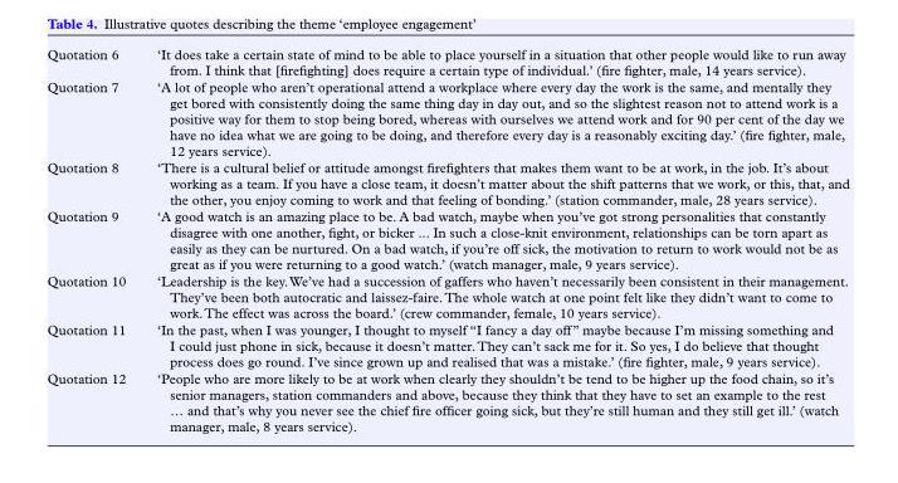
<table><tbody><tr><td>Quotation 6</td><td>‘It does take a certain state of mind to be able to place yourself in a situation that other people would like to run away from. I think that [firefighting] does require a certain type of individual.’ (fire fighter, male, 14 years service).</td></tr><tr><td>Quotation 7</td><td>‘A lot of people who aren’t operational attend a workplace where every day the work is the same, and mentally they get bored with consistently doing the same thing day in day out, and so the slightest reason not to attend work is a positive way for them to stop being bored, whereas with ourselves we attend work and for 90 per cent of the day we have no idea what we are going to be doing, and therefore every day is a reasonably exciting day.’ (fire fighter, male, 12 years service).</td></tr><tr><td>Quotation 8</td><td>‘There is a cultural belief or attitude amongst firefighters that makes them want to be at work, in the job. It’s about working as a team. If you have a close team, it doesn’t matter about the shift patterns that we work, or this, that, and the other, you enjoy coming to work and that feeling of bonding.’ (station commander, male, 28 years service).</td></tr><tr><td>Quotation 9</td><td>‘A good watch is an amazing place to be. A bad watch, maybe when you’ve got strong personalities that constantly disagree with one another, fight, or bicker ... In such a close-knit environment, relationships can be torn apart as easily as they can be nurtured. On a bad watch, if you’re off sick, the motivation to return to work would not be as great as if you were returning to a good watch.’ (watch manager, male, 9 years service).</td></tr><tr><td>Quotation 10</td><td>‘Leadership is the key. We’ve had a succession of gaffers who haven’t necessarily been consistent in their management. They’ve been both autocratic and laissez-faire. The whole watch at one point felt like they didn’t want to come to work. The effect was across the board.’ (crew commander, female, 10 years service).</td></tr><tr><td>Quotation 11</td><td>‘In the past, when I was younger, I thought to myself “I fancy a day off” maybe because I’m missing something and I could just phone in sick, because it doesn’t matter. They can’t sack me for it. So yes, I do believe that thought process does go round. I’ve since grown up and realised that was a mistake.’ (fire fighter, male, 9 years service).</td></tr><tr><td>Quotation 12</td><td>‘People who are more likely to be at work when clearly they shouldn’t be tend to be higher up the food chain, so it’s senior managers, station commanders and above, because they think that they have to set an example to the rest … and that’s why you never see the chief fire officer going sick, but they’re still human and they still get ill.’ (watch manager, male, 8 years service).</td></tr></tbody></table>